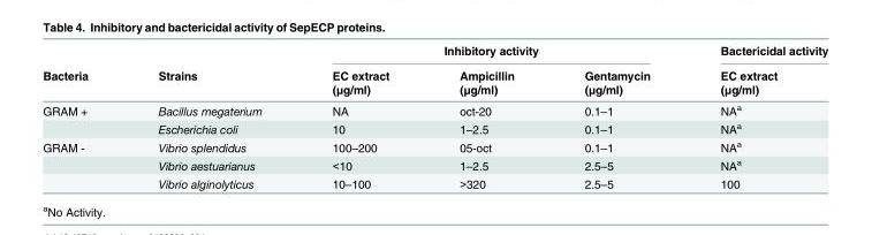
<table><thead><tr><td rowspan="3">Bacteria</td><td rowspan="3">Strains</td><td colspan="3">Inhibitory activity</td><td rowspan="3">Bactericidal activity EC extract (μg/ml)</td></tr><tr><td rowspan="2">EC extract (μg/ml)</td><td rowspan="2">Ampicillin (μg/ml)</td><td rowspan="2">Gentamycin (μg/ml)</td></tr><tr></tr></thead><tbody><tr><td rowspan="2">GRAM +</td><td>Bacillus megaterium</td><td>NA</td><td>oct-20</td><td>0.1–1</td><td>NA<sup>a</sup></td></tr><tr><td>Escherichia coli</td><td>10</td><td>1–2.5</td><td>0.1–1</td><td>NA<sup>a</sup></td></tr><tr><td rowspan="3">GRAM -</td><td>Vibrio splendidus</td><td>100–200</td><td>05-oct</td><td>0.1–1</td><td>NA<sup>a</sup></td></tr><tr><td>Vibrio aestuarianus</td><td>&lt;10</td><td>1–2.5</td><td>2.5–5</td><td>NA<sup>a</sup></td></tr><tr><td>Vibrio alginolyticus</td><td>10–100</td><td>&gt;320</td><td>2.5–5</td><td>100</td></tr></tbody></table>